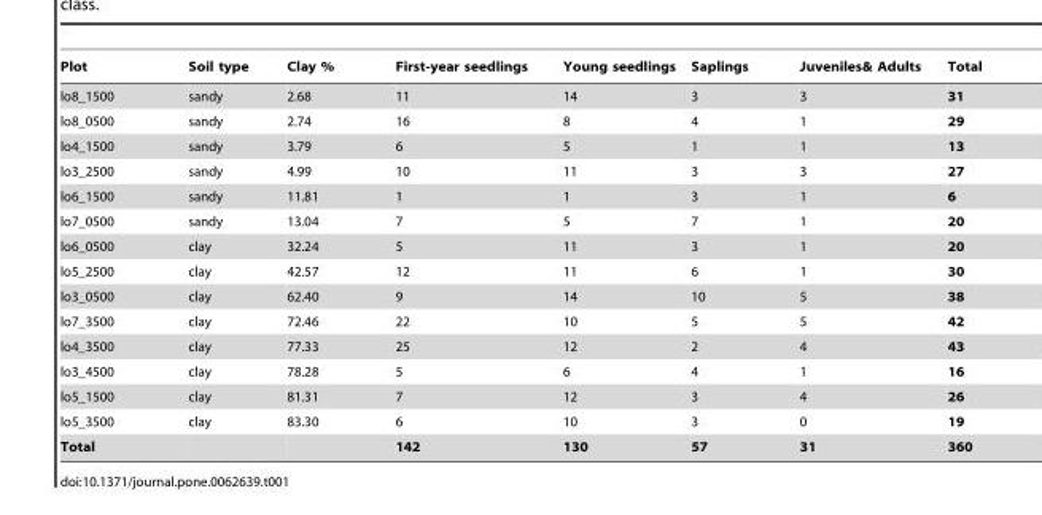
<table><thead><tr><td>Plot</td><td>Soil type</td><td>Clay %</td><td>First-year seedlings</td><td>Young seedlings</td><td>Saplings</td><td>Juveniles&amp; Adults</td><td>Total</td></tr></thead><tbody><tr><td>lo8_1500</td><td>sandy</td><td>2.68</td><td>11</td><td>14</td><td>3</td><td>3</td><td>31</td></tr><tr><td>lo8_0500</td><td>sandy</td><td>2.74</td><td>16</td><td>8</td><td>4</td><td>1</td><td>29</td></tr><tr><td>lo4_1500</td><td>sandy</td><td>3.79</td><td>6</td><td>5</td><td>1</td><td>1</td><td>13</td></tr><tr><td>lo3_2500</td><td>sandy</td><td>4.99</td><td>10</td><td>11</td><td>3</td><td>3</td><td>27</td></tr><tr><td>lo6_1500</td><td>sandy</td><td>11.81</td><td>1</td><td>1</td><td>3</td><td>1</td><td>6</td></tr><tr><td>lo7_0500</td><td>sandy</td><td>13.04</td><td>7</td><td>5</td><td>7</td><td>1</td><td>20</td></tr><tr><td>lo6_0500</td><td>clay</td><td>32.24</td><td>5</td><td>11</td><td>3</td><td>1</td><td>20</td></tr><tr><td>lo5_2500</td><td>clay</td><td>42.57</td><td>12</td><td>11</td><td>6</td><td>1</td><td>30</td></tr><tr><td>lo3_0500</td><td>clay</td><td>62.40</td><td>9</td><td>14</td><td>10</td><td>5</td><td>38</td></tr><tr><td>lo7_3500</td><td>clay</td><td>72.46</td><td>22</td><td>10</td><td>5</td><td>5</td><td>42</td></tr><tr><td>lo4_3500</td><td>clay</td><td>77.33</td><td>25</td><td>12</td><td>2</td><td>4</td><td>43</td></tr><tr><td>lo3_4500</td><td>clay</td><td>78.28</td><td>5</td><td>6</td><td>4</td><td>1</td><td>16</td></tr><tr><td>lo5_1500</td><td>clay</td><td>81.31</td><td>7</td><td>12</td><td>3</td><td>4</td><td>26</td></tr><tr><td>lo5_3500</td><td>clay</td><td>83.30</td><td>6</td><td>10</td><td>3</td><td>0</td><td>19</td></tr><tr><td>Total</td><td></td><td></td><td>142</td><td>130</td><td>57</td><td>31</td><td>360</td></tr></tbody></table>